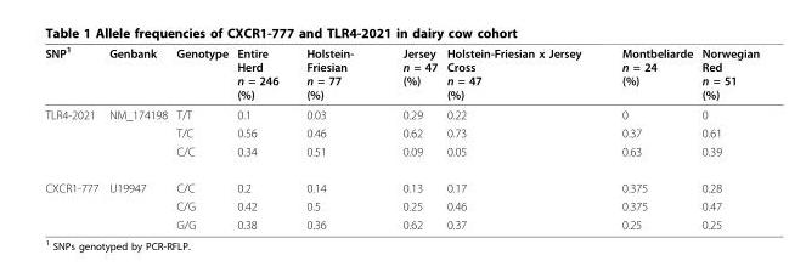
<table><thead><tr><td>SNP<sup>1</sup></td><td>Genbank</td><td>Genotype</td><td>Entire Herd n = 246 (%)</td><td>Holstein- Friesian n = 77 (%)</td><td>Jersey n = 47 (%)</td><td>Holstein-Friesian x Jersey Cross n = 47 (%)</td><td>Montbeliarde n = 24 (%)</td><td>Norwegian Red n = 51 (%)</td></tr></thead><tbody><tr><td rowspan="3">TLR4-2021</td><td>NM_174198</td><td>T/T</td><td>0.1</td><td>0.03</td><td>0.29</td><td>0.22</td><td>0</td><td>0</td></tr><tr><td></td><td>T/C</td><td>0.56</td><td>0.46</td><td>0.62</td><td>0.73</td><td>0.37</td><td>0.61</td></tr><tr><td></td><td>C/C</td><td>0.34</td><td>0.51</td><td>0.09</td><td>0.05</td><td>0.63</td><td>0.39</td></tr><tr><td rowspan="3">CXCR1-777</td><td>U19947</td><td>C/C</td><td>0.2</td><td>0.14</td><td>0.13</td><td>0.17</td><td>0.375</td><td>0.28</td></tr><tr><td></td><td>C/G</td><td>0.42</td><td>0.5</td><td>0.25</td><td>0.46</td><td>0.375</td><td>0.47</td></tr><tr><td></td><td>G/G</td><td>0.38</td><td>0.36</td><td>0.62</td><td>0.37</td><td>0.25</td><td>0.25</td></tr></tbody></table>